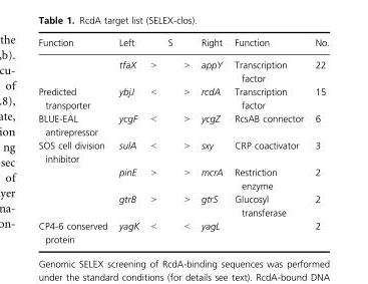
<table><thead><tr><td>Function</td><td>Left</td><td></td><td>S</td><td></td><td>Right</td><td>Function</td><td>No.</td></tr></thead><tbody><tr><td></td><td>tfaX</td><td>&gt;</td><td></td><td>&gt;</td><td>appY</td><td>Transcription factor</td><td>22</td></tr><tr><td>Predicted transporter</td><td>ybjJ</td><td>&lt;</td><td></td><td>&gt;</td><td>rcdA</td><td>Transcription factor</td><td>15</td></tr><tr><td>BLUE-EAL antirepressor</td><td>ycgF</td><td>&lt;</td><td></td><td>&gt;</td><td>ycgZ</td><td>RcsAB connector</td><td>6</td></tr><tr><td rowspan="3">SOS cell division inhibitor</td><td>sulA</td><td>&lt;</td><td></td><td>&gt;</td><td>sxy</td><td>CRP coactivator</td><td>3</td></tr><tr><td>pinE</td><td>&gt;</td><td></td><td>&gt;</td><td>mcrA</td><td>Restriction enzyme</td><td>2</td></tr><tr><td>gtrB</td><td>&gt;</td><td></td><td>&gt;</td><td>gtrS</td><td>Glucosyl transferase</td><td>2</td></tr><tr><td>CP4-6 conserved protein</td><td>yagK</td><td>&lt;</td><td></td><td>&lt;</td><td>yagL</td><td></td><td>2</td></tr></tbody></table>